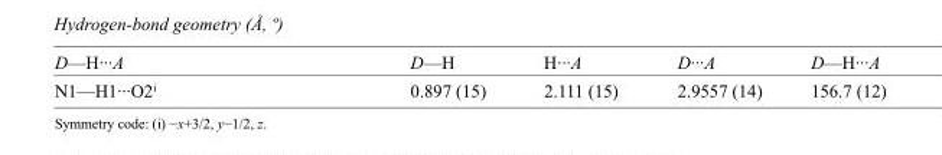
<table><tbody><tr><td>D—H···A</td><td>D—H</td><td>H···A</td><td>D···A</td><td>D—H···A</td></tr><tr><td>N1—H1···O2<sup>i</sup></td><td>0.897 (15)</td><td>2.111 (15)</td><td>2.9557 (14)</td><td>156.7 (12)</td></tr></tbody></table>